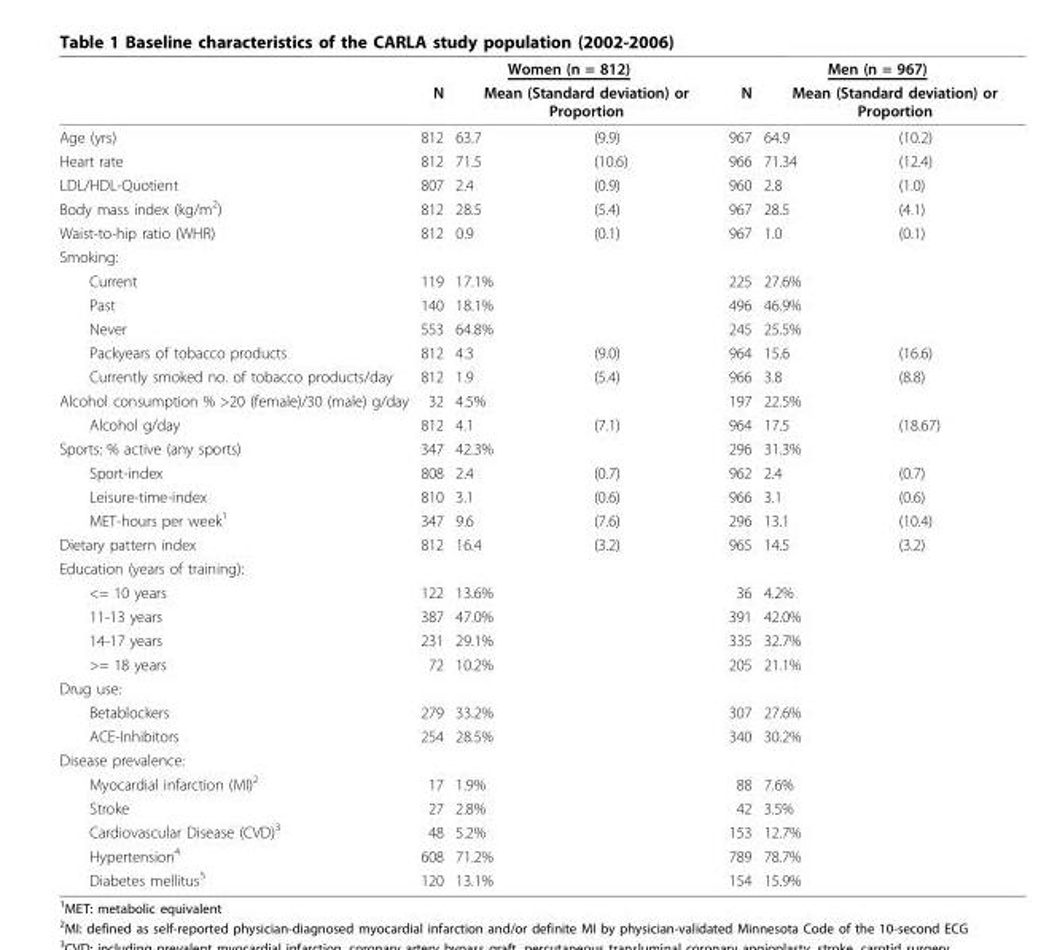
<table><thead><tr><td rowspan="3">Age (yrs)</td><td colspan="3">Women (n = 812)</td><td colspan="3">Men (n = 967)</td></tr><tr><td rowspan="2">N 812</td><td colspan="2">Mean (Standard deviation) or Proportion</td><td rowspan="2">N 967</td><td colspan="2">Mean (Standard deviation) or Proportion</td></tr><tr><td>63.7</td><td>(9.9)</td><td>64.9</td><td>(10.2)</td></tr></thead><tbody><tr><td>Heart rate</td><td>812</td><td>71.5</td><td>(10.6)</td><td>966</td><td>71.34</td><td>(12.4)</td></tr><tr><td>LDL/HDL-Quotient</td><td>807</td><td>2.4</td><td>(0.9)</td><td>960</td><td>2.8</td><td>(1.0)</td></tr><tr><td>Body mass index (kg/m<sup>2</sup>)</td><td>812</td><td>28.5</td><td>(5.4)</td><td>967</td><td>28.5</td><td>(4.1)</td></tr><tr><td>Waist-to-hip ratio (WHR)</td><td>812</td><td>0.9</td><td>(0.1)</td><td>967</td><td>1.0</td><td>(0.1)</td></tr><tr><td colspan="7">Smoking:</td></tr><tr><td>Current</td><td>119</td><td>17.1%</td><td></td><td>225</td><td>27.6%</td><td></td></tr><tr><td>Past</td><td>140</td><td>18.1%</td><td></td><td>496</td><td>46.9%</td><td></td></tr><tr><td>Never</td><td>553</td><td>64.8%</td><td></td><td>245</td><td>25.5%</td><td></td></tr><tr><td>Packyears of tobacco products</td><td>812</td><td>4.3</td><td>(9.0)</td><td>964</td><td>15.6</td><td>(16.6)</td></tr><tr><td>Currently smoked no. of tobacco products/day</td><td>812</td><td>1.9</td><td>(5.4)</td><td>966</td><td>3.8</td><td>(8.8)</td></tr><tr><td>Alcohol consumption % &gt;20 (female)/30 (male) g/day</td><td>32</td><td>4.5%</td><td></td><td>197</td><td>22.5%</td><td></td></tr><tr><td>Alcohol g/day</td><td>812</td><td>4.1</td><td>(7.1)</td><td>964</td><td>17.5</td><td>(18.67)</td></tr><tr><td>Sports: % active (any sports)</td><td>347</td><td>42.3%</td><td></td><td>296</td><td>31.3%</td><td></td></tr><tr><td>Sport-index</td><td>808</td><td>2.4</td><td>(0.7)</td><td>962</td><td>2.4</td><td>(0.7)</td></tr><tr><td>Leisure-time-index</td><td>810</td><td>3.1</td><td>(0.6)</td><td>966</td><td>3.1</td><td>(0.6)</td></tr><tr><td>MET-hours per week<sup>1</sup></td><td>347</td><td>9.6</td><td>(7.6)</td><td>296</td><td>13.1</td><td>(10.4)</td></tr><tr><td>Dietary pattern index</td><td>812</td><td>16.4</td><td>(3.2)</td><td>965</td><td>14.5</td><td>(3.2)</td></tr><tr><td colspan="7">Education (years of training):</td></tr><tr><td>&lt;= 10 years</td><td>122</td><td>13.6%</td><td></td><td>36</td><td>4.2%</td><td></td></tr><tr><td>11-13 years</td><td>387</td><td>47.0%</td><td></td><td>391</td><td>42.0%</td><td></td></tr><tr><td>14-17 years</td><td>231</td><td>29.1%</td><td></td><td>335</td><td>32.7%</td><td></td></tr><tr><td>&gt;= 18 years</td><td>72</td><td>10.2%</td><td></td><td>205</td><td>21.1%</td><td></td></tr><tr><td colspan="7">Drug use:</td></tr><tr><td>Betablockers</td><td>279</td><td>33.2%</td><td></td><td>307</td><td>27.6%</td><td></td></tr><tr><td>ACE-Inhibitors</td><td>254</td><td>28.5%</td><td></td><td>340</td><td>30.2%</td><td></td></tr><tr><td colspan="7">Disease prevalence:</td></tr><tr><td>Myocardial infarction (MI)<sup>2</sup></td><td>17</td><td>1.9%</td><td></td><td>88</td><td>7.6%</td><td></td></tr><tr><td>Stroke</td><td>27</td><td>2.8%</td><td></td><td>42</td><td>3.5%</td><td></td></tr><tr><td>Cardiovascular Disease (CVD)<sup>3</sup></td><td>48</td><td>5.2%</td><td></td><td>153</td><td>12.7%</td><td></td></tr><tr><td>Hypertension<sup>4</sup></td><td>608</td><td>71.2%</td><td></td><td>789</td><td>78.7%</td><td></td></tr><tr><td>Diabetes mellitus<sup>5</sup></td><td>120</td><td>13.1%</td><td></td><td>154</td><td>15.9%</td><td></td></tr></tbody></table>